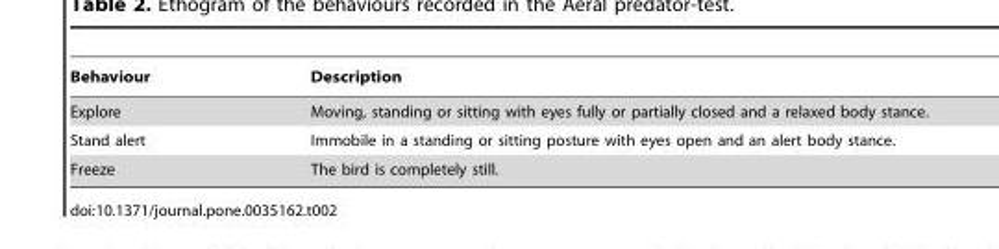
<table><thead><tr><td>Behaviour</td><td>Description</td></tr></thead><tbody><tr><td>Explore</td><td>Moving, standing or sitting with eyes fully or partially closed and a relaxed body stance.</td></tr><tr><td>Stand alert</td><td>Immobile in a standing or sitting posture with eyes open and an alert body stance.</td></tr><tr><td>Freeze</td><td>The bird is completely still.</td></tr></tbody></table>